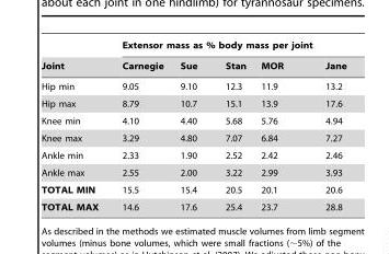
<table><thead><tr><td rowspan="2">Joint</td><td colspan="5">Extensor mass as % body mass per joint</td></tr><tr><td>Carnegie</td><td>Sue</td><td>Stan</td><td>MOR</td><td>Jane</td></tr></thead><tbody><tr><td>Hip min</td><td>9.05</td><td>9.10</td><td>12.3</td><td>11.9</td><td>13.2</td></tr><tr><td>Hip max</td><td>8.79</td><td>10.7</td><td>15.1</td><td>13.9</td><td>17.6</td></tr><tr><td>Knee min</td><td>4.10</td><td>4.40</td><td>5.68</td><td>5.76</td><td>4.94</td></tr><tr><td>Knee max</td><td>3.29</td><td>4.80</td><td>7.07</td><td>6.84</td><td>7.27</td></tr><tr><td>Ankle min</td><td>2.33</td><td>1.90</td><td>2.52</td><td>2.42</td><td>2.46</td></tr><tr><td>Ankle max</td><td>2.55</td><td>2.00</td><td>3.22</td><td>2.99</td><td>3.93</td></tr><tr><td>TOTAL MIN</td><td>15.5</td><td>15.4</td><td>20.5</td><td>20.1</td><td>20.6</td></tr><tr><td>TOTAL MAX</td><td>14.6</td><td>17.6</td><td>25.4</td><td>23.7</td><td>28.8</td></tr></tbody></table>